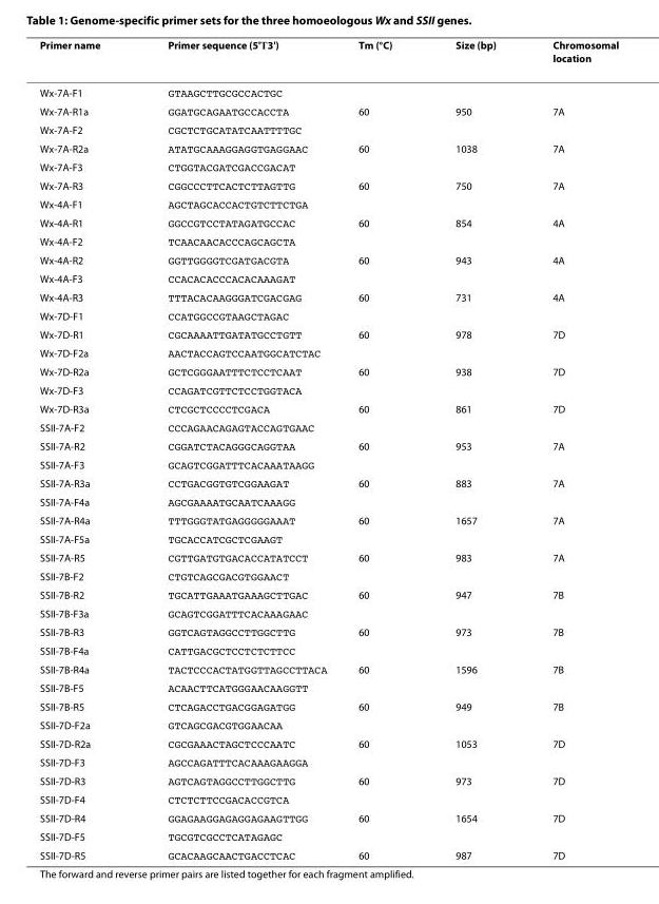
<table><thead><tr><td>Primer name</td><td>Primer sequence (5&#x27;→3&#x27;)</td><td>Tm (°C)</td><td>Size (bp)</td><td>Chromosomal location</td></tr></thead><tbody><tr><td>Wx-7A-F1</td><td>GTAAGCTTGCGCCACTGC</td><td></td><td></td><td></td></tr><tr><td>Wx-7A-R1a</td><td>GGATGCAGAATGCCACCTA</td><td>60</td><td>950</td><td>7A</td></tr><tr><td>Wx-7A-F2</td><td>CGCTCTGCATATCAATTTTGC</td><td></td><td></td><td></td></tr><tr><td>Wx-7A-R2a</td><td>ATATGCAAAGGAGGTGAGGAAC</td><td>60</td><td>1038</td><td>7A</td></tr><tr><td>Wx-7A-F3</td><td>CTGGTACGATCGACCGACAT</td><td></td><td></td><td></td></tr><tr><td>Wx-7A-R3</td><td>CGGCCCTTCACTCTTAGTTG</td><td>60</td><td>750</td><td>7A</td></tr><tr><td>Wx-4A-F1</td><td>AGCTAGCACCACTGTCTTCTGA</td><td></td><td></td><td></td></tr><tr><td>Wx-4A-R1</td><td>GGCCGTCCTATAGATGCCAC</td><td>60</td><td>854</td><td>4A</td></tr><tr><td>Wx-4A-F2</td><td>TCAACAACACCCAGCAGCTA</td><td></td><td></td><td></td></tr><tr><td>Wx-4A-R2</td><td>GGTTGGGGTCGATGACGTA</td><td>60</td><td>943</td><td>4A</td></tr><tr><td>Wx-4A-F3</td><td>CCACACACCCACACAAAGAT</td><td></td><td></td><td></td></tr><tr><td>Wx-4A-R3</td><td>TTTACACAAGGGATCGACGAG</td><td>60</td><td>731</td><td>4A</td></tr><tr><td>Wx-7D-F1</td><td>CCATGGCCGTAAGCTAGAC</td><td></td><td></td><td></td></tr><tr><td>Wx-7D-R1</td><td>CGCAAAATTGATATGCCTGTT</td><td>60</td><td>978</td><td>7D</td></tr><tr><td>Wx-7D-F2a</td><td>AACTACCAGTCCAATGGCATCTAC</td><td></td><td></td><td></td></tr><tr><td>Wx-7D-R2a</td><td>GCTCGGGAATTTCTCCTCAAT</td><td>60</td><td>938</td><td>7D</td></tr><tr><td>Wx-7D-F3</td><td>CCAGATCGTTCTCCTGGTACA</td><td></td><td></td><td></td></tr><tr><td>Wx-7D-R3a</td><td>CTCGCTCCCCTCGACA</td><td>60</td><td>861</td><td>7D</td></tr><tr><td>SSII-7A-F2</td><td>CCCAGAACAGAGTACCAGTGAAC</td><td></td><td></td><td></td></tr><tr><td>SSII-7A-R2</td><td>CGGATCTACAGGGCAGGTAA</td><td>60</td><td>953</td><td>7A</td></tr><tr><td>SSII-7A-F3</td><td>GCAGTCGGATTTCACAAATAAGG</td><td></td><td></td><td></td></tr><tr><td>SSII-7A-R3a</td><td>CCTGACGGTGTCGGAAGAT</td><td>60</td><td>883</td><td>7A</td></tr><tr><td>SSII-7A-F4a</td><td>AGCGAAAATGCAATCAAAGG</td><td></td><td></td><td></td></tr><tr><td>SSII-7A-R4a</td><td>TTTGGGTATGAGGGGGAAAT</td><td>60</td><td>1657</td><td>7A</td></tr><tr><td>SSII-7A-F5a</td><td>TGCACCATCGCTCGAAGT</td><td></td><td></td><td></td></tr><tr><td>SSII-7A-R5</td><td>CGTTGATGTGACACCATATCCT</td><td>60</td><td>983</td><td>7A</td></tr><tr><td>SSII-7B-F2</td><td>CTGTCAGCGACGTGGAACT</td><td></td><td></td><td></td></tr><tr><td>SSII-7B-R2</td><td>TGCATTGAAATGAAAGCTTGAC</td><td>60</td><td>947</td><td>7B</td></tr><tr><td>SSII-7B-F3a</td><td>GCAGTCGGATTTCACAAAGAAC</td><td></td><td></td><td></td></tr><tr><td>SSII-7B-R3</td><td>GGTCAGTAGGCCTTGGCTTG</td><td>60</td><td>973</td><td>7B</td></tr><tr><td>SSII-7B-F4a</td><td>CATTGACGCTCCTCTCTTCC</td><td></td><td></td><td></td></tr><tr><td>SSII-7B-R4a</td><td>TACTCCCACTATGGTTAGCCTTACA</td><td>60</td><td>1596</td><td>7B</td></tr><tr><td>SSII-7B-F5</td><td>ACAACTTCATGGGAACAAGGTT</td><td></td><td></td><td></td></tr><tr><td>SSII-7B-R5</td><td>CTCAGACCTGACGGAGATGG</td><td>60</td><td>949</td><td>7B</td></tr><tr><td>SSII-7D-F2a</td><td>GTCAGCGACGTGGAACAA</td><td></td><td></td><td></td></tr><tr><td>SSII-7D-R2a</td><td>CGCGAAACTAGCTCCCAATC</td><td>60</td><td>1053</td><td>7D</td></tr><tr><td>SSII-7D-F3</td><td>AGCCAGATTTCACAAAGAAGGA</td><td></td><td></td><td></td></tr><tr><td>SSII-7D-R3</td><td>AGTCAGTAGGCCTTGGCTTG</td><td>60</td><td>973</td><td>7D</td></tr><tr><td>SSII-7D-F4</td><td>CTCTCTTCCGACACCGTCA</td><td></td><td></td><td></td></tr><tr><td>SSII-7D-R4</td><td>GGAGAAGGAGAGGAGAAGTTGG</td><td>60</td><td>1654</td><td>7D</td></tr><tr><td>SSII-7D-F5</td><td>TGCGTCGCCTCATAGAGC</td><td></td><td></td><td></td></tr><tr><td>SSII-7D-R5</td><td>GCACAAGCAACTGACCTCAC</td><td>60</td><td>987</td><td>7D</td></tr></tbody></table>